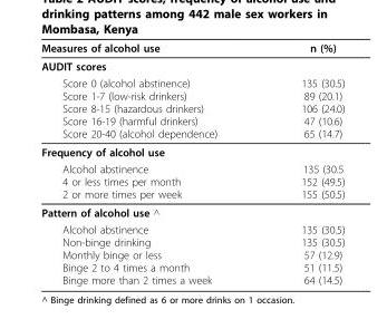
<table><thead><tr><td>Measures of alcohol use</td><td>n (%)</td></tr></thead><tbody><tr><td colspan="2">AUDIT scores</td></tr><tr><td>Score 0 (alcohol abstinence) Score 1-7 (low-risk drinkers) Score 8-15 (hazardous drinkers) Score 16-19 (harmful drinkers) Score 20-40 (alcohol dependence)</td><td>135 (30.5) 89 (20.1) 106 (24.0) 47 (10.6) 65 (14.7)</td></tr><tr><td colspan="2">Frequency of alcohol use</td></tr><tr><td>Alcohol abstinence 4 or less times per month 2 or more times per week</td><td>135 (30.5 152 (49.5) 155 (50.5)</td></tr><tr><td colspan="2">Pattern of alcohol use ^</td></tr><tr><td>Alcohol abstinence Non-binge drinking Monthly binge or less Binge 2 to 4 times a month Binge more than 2 times a week</td><td>135 (30.5) 135 (30.5) 57 (12.9) 51 (11.5) 64 (14.5)</td></tr></tbody></table>